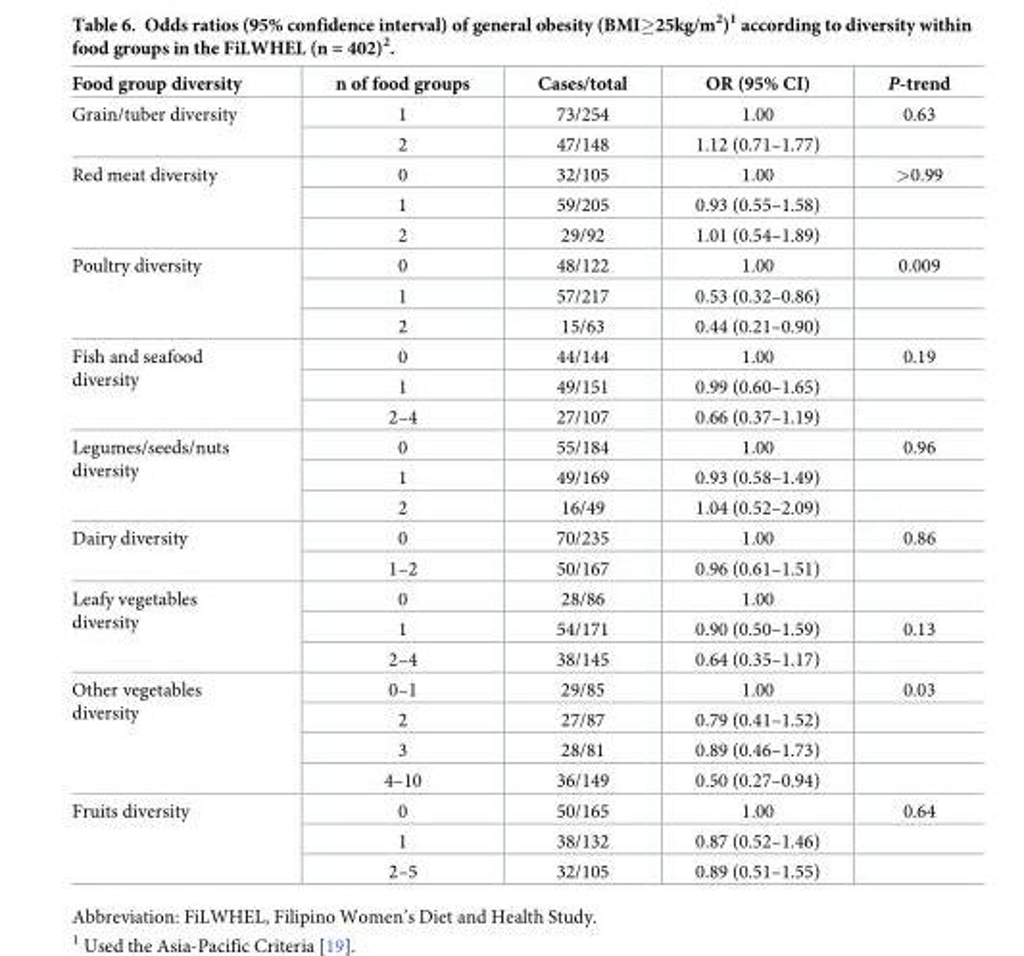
<table><thead><tr><td>Food group diversity</td><td>n of food groups</td><td>Cases/total</td><td>OR (95% CI)</td><td>P-trend</td></tr></thead><tbody><tr><td rowspan="2">Grain/tuber diversity</td><td>1</td><td>73/254</td><td>1.00</td><td>0.63</td></tr><tr><td>2</td><td>47/148</td><td>1.12 (0.71–1.77)</td><td></td></tr><tr><td rowspan="3">Red meat diversity</td><td>0</td><td>32/105</td><td>1.00</td><td>&gt;0.99</td></tr><tr><td>1</td><td>59/205</td><td>0.93 (0.55–1.58)</td><td></td></tr><tr><td>2</td><td>29/92</td><td>1.01 (0.54–1.89)</td><td></td></tr><tr><td rowspan="3">Poultry diversity</td><td>0</td><td>48/122</td><td>1.00</td><td>0.009</td></tr><tr><td>1</td><td>57/217</td><td>0.53 (0.32–0.86)</td><td></td></tr><tr><td>2</td><td>15/63</td><td>0.44 (0.21–0.90)</td><td></td></tr><tr><td rowspan="3">Fish and seafood diversity</td><td>0</td><td>44/144</td><td>1.00</td><td>0.19</td></tr><tr><td>1</td><td>49/151</td><td>0.99 (0.60–1.65)</td><td></td></tr><tr><td>2–4</td><td>27/107</td><td>0.66 (0.37–1.19)</td><td></td></tr><tr><td rowspan="3">Legumes/seeds/nuts diversity</td><td>0</td><td>55/184</td><td>1.00</td><td>0.96</td></tr><tr><td>1</td><td>49/169</td><td>0.93 (0.58–1.49)</td><td></td></tr><tr><td>2</td><td>16/49</td><td>1.04 (0.52–2.09)</td><td></td></tr><tr><td rowspan="2">Dairy diversity</td><td>0</td><td>70/235</td><td>1.00</td><td>0.86</td></tr><tr><td>1–2</td><td>50/167</td><td>0.96 (0.61–1.51)</td><td></td></tr><tr><td rowspan="3">Leafy vegetables diversity</td><td>0</td><td>28/86</td><td>1.00</td><td></td></tr><tr><td>1</td><td>54/171</td><td>0.90 (0.50–1.59)</td><td>0.13</td></tr><tr><td>2–4</td><td>38/145</td><td>0.64 (0.35–1.17)</td><td></td></tr><tr><td rowspan="4">Other vegetables diversity</td><td>0–1</td><td>29/85</td><td>1.00</td><td>0.03</td></tr><tr><td>2</td><td>27/87</td><td>0.79 (0.41–1.52)</td><td></td></tr><tr><td>3</td><td>28/81</td><td>0.89 (0.46–1.73)</td><td></td></tr><tr><td>4–10</td><td>36/149</td><td>0.50 (0.27–0.94)</td><td></td></tr><tr><td rowspan="3">Fruits diversity</td><td>0</td><td>50/165</td><td>1.00</td><td>0.64</td></tr><tr><td>1</td><td>38/132</td><td>0.87 (0.52–1.46)</td><td></td></tr><tr><td>2–5</td><td>32/105</td><td>0.89 (0.51–1.55)</td><td></td></tr></tbody></table>